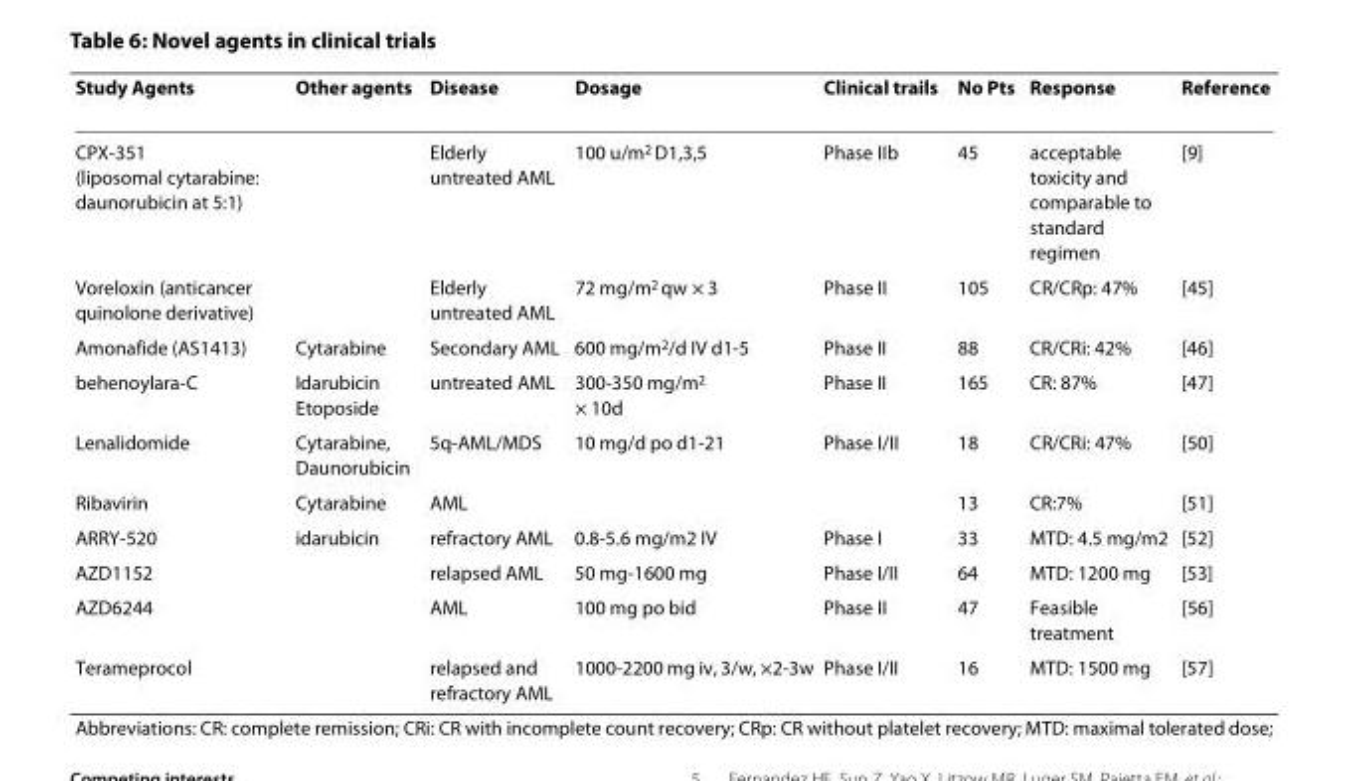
<table><thead><tr><td>Study Agents</td><td>Other agents</td><td>Disease</td><td>Dosage</td><td>Clinical trails</td><td>No Pts</td><td>Response</td><td>Reference</td></tr></thead><tbody><tr><td>CPX-351 (liposomal cytarabine: daunorubicin at 5:1)</td><td></td><td>Elderly untreated AML</td><td>100 u/m<sup>2</sup> D1,3,5</td><td>Phase IIb</td><td>45</td><td>acceptable toxicity and comparable to standard regimen</td><td>[9]</td></tr><tr><td>Voreloxin (anticancer quinolone derivative)</td><td></td><td>Elderly untreated AML</td><td>72 mg/m<sup>2</sup> qw × 3</td><td>Phase II</td><td>105</td><td>CR/CRp: 47%</td><td>[45]</td></tr><tr><td>Amonafide (AS1413)</td><td>Cytarabine</td><td>Secondary AML</td><td>600 mg/m<sup>2</sup>/d IV d1-5</td><td>Phase II</td><td>88</td><td>CR/CRi: 42%</td><td>[46]</td></tr><tr><td>behenoylara-C</td><td>Idarubicin Etoposide</td><td>untreated AML</td><td>300-350 mg/m<sup>2</sup> × 10d</td><td>Phase II</td><td>165</td><td>CR: 87%</td><td>[47]</td></tr><tr><td>Lenalidomide</td><td>Cytarabine, Daunorubicin</td><td>5q-AML/MDS</td><td>10 mg/d po d1-21</td><td>Phase I/II</td><td>18</td><td>CR/CRi: 47%</td><td>[50]</td></tr><tr><td>Ribavirin</td><td>Cytarabine</td><td>AML</td><td></td><td></td><td>13</td><td>CR:7%</td><td>[51]</td></tr><tr><td>ARRY-520</td><td>idarubicin</td><td>refractory AML</td><td>0.8-5.6 mg/m2 IV</td><td>Phase I</td><td>33</td><td>MTD: 4.5 mg/m2</td><td>[52]</td></tr><tr><td>AZD1152</td><td></td><td>relapsed AML</td><td>50 mg-1600 mg</td><td>Phase I/II</td><td>64</td><td>MTD: 1200 mg</td><td>[53]</td></tr><tr><td>AZD6244</td><td></td><td>AML</td><td>100 mg po bid</td><td>Phase II</td><td>47</td><td>Feasible treatment</td><td>[56]</td></tr><tr><td>Terameprocol</td><td></td><td>relapsed and refractory AML</td><td>1000-2200 mg iv, 3/w, ×2-3w</td><td>Phase I/II</td><td>16</td><td>MTD: 1500 mg</td><td>[57]</td></tr></tbody></table>